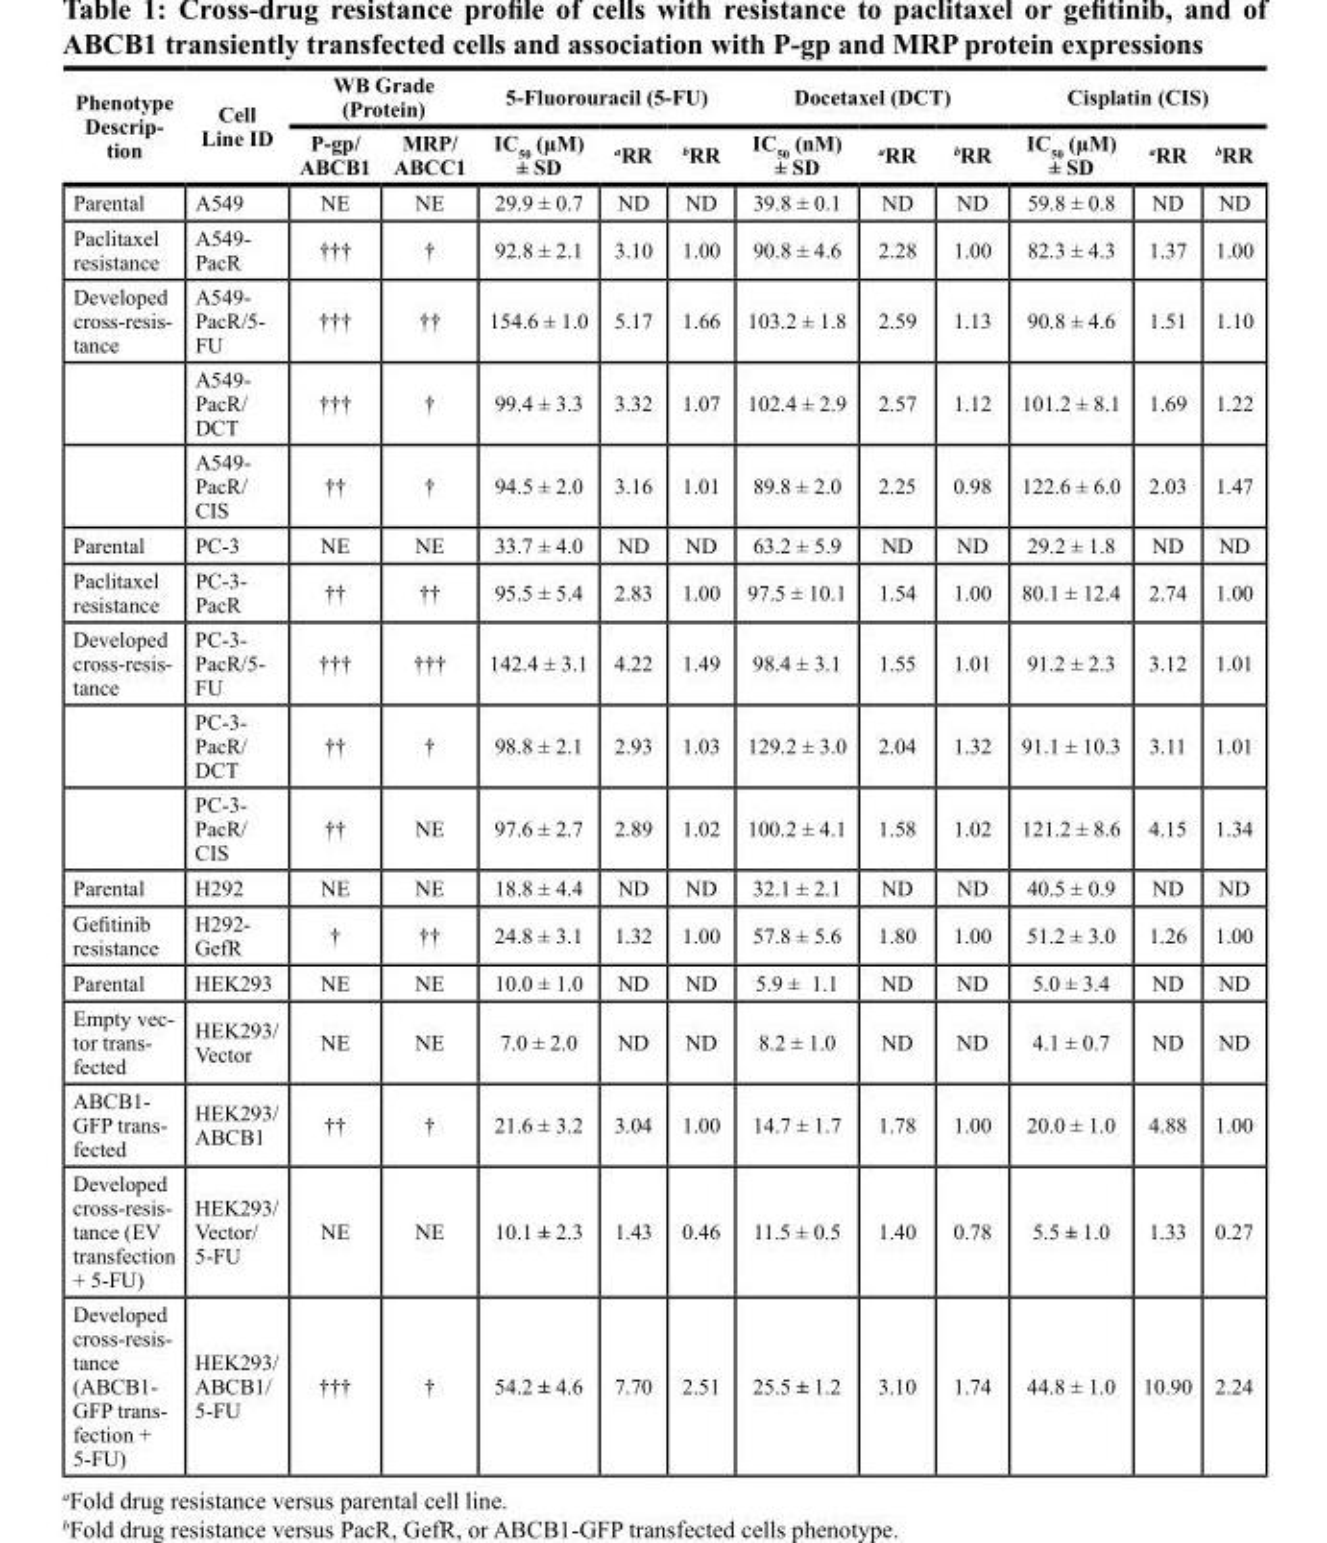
<table><thead><tr><td rowspan="2">Phenotype Descrip- tion</td><td rowspan="2">cell Line ID</td><td colspan="2">Wb Grade (Protein)</td><td colspan="3">5-Fluorouracil (5-FU)</td><td colspan="3">Docetaxel (Dct)</td><td colspan="3">cisplatin (cIs)</td></tr><tr><td>P-gp/ Abcb1</td><td>MRP/ Abcc1</td><td>Ic<sub>50</sub> (µM) ± sD</td><td><sup>a</sup>rr</td><td><sup>b</sup>rr</td><td>Ic<sub>50</sub> (nM) ± sD</td><td><sup>a</sup>rr</td><td><sup>b</sup>rr</td><td>Ic<sub>50</sub> (µM) ± sD</td><td><sup>a</sup>rr</td><td><sup>b</sup>rr</td></tr></thead><tbody><tr><td>Parental</td><td>A549</td><td>NE</td><td>NE</td><td>29.9 ± 0.7</td><td>ND</td><td>ND</td><td>39.8 ± 0.1</td><td>ND</td><td>ND</td><td>59.8 ± 0.8</td><td>ND</td><td>ND</td></tr><tr><td>Paclitaxel resistance</td><td>A549- PacR</td><td>†††</td><td>†</td><td>92.8 ± 2.1</td><td>3.10</td><td>1.00</td><td>90.8 ± 4.6</td><td>2.28</td><td>1.00</td><td>82.3 ± 4.3</td><td>1.37</td><td>1.00</td></tr><tr><td rowspan="3">Developed cross-resis- tance</td><td>A549- PacR/5- FU</td><td>†††</td><td>††</td><td>154.6 ± 1.0</td><td>5.17</td><td>1.66</td><td>103.2 ± 1.8</td><td>2.59</td><td>1.13</td><td>90.8 ± 4.6</td><td>1.51</td><td>1.10</td></tr><tr><td>A549- PacR/ DCT</td><td>†††</td><td>†</td><td>99.4 ± 3.3</td><td>3.32</td><td>1.07</td><td>102.4 ± 2.9</td><td>2.57</td><td>1.12</td><td>101.2 ± 8.1</td><td>1.69</td><td>1.22</td></tr><tr><td>A549- PacR/ CIS</td><td>††</td><td>†</td><td>94.5 ± 2.0</td><td>3.16</td><td>1.01</td><td>89.8 ± 2.0</td><td>2.25</td><td>0.98</td><td>122.6 ± 6.0</td><td>2.03</td><td>1.47</td></tr><tr><td>Parental</td><td>PC-3</td><td>NE</td><td>NE</td><td>33.7 ± 4.0</td><td>ND</td><td>ND</td><td>63.2 ± 5.9</td><td>ND</td><td>ND</td><td>29.2 ± 1.8</td><td>ND</td><td>ND</td></tr><tr><td>Paclitaxel resistance</td><td>PC-3- PacR</td><td>††</td><td>††</td><td>95.5 ± 5.4</td><td>2.83</td><td>1.00</td><td>97.5 ± 10.1</td><td>1.54</td><td>1.00</td><td>80.1 ± 12.4</td><td>2.74</td><td>1.00</td></tr><tr><td rowspan="3">Developed cross-resis- tance</td><td>PC-3- PacR/5- FU</td><td>†††</td><td>†††</td><td>142.4 ± 3.1</td><td>4.22</td><td>1.49</td><td>98.4 ± 3.1</td><td>1.55</td><td>1.01</td><td>91.2 ± 2.3</td><td>3.12</td><td>1.01</td></tr><tr><td>PC-3- PacR/ DCT</td><td>††</td><td>†</td><td>98.8 ± 2.1</td><td>2.93</td><td>1.03</td><td>129.2 ± 3.0</td><td>2.04</td><td>1.32</td><td>91.1 ± 10.3</td><td>3.11</td><td>1.01</td></tr><tr><td>PC-3- PacR/ CIS</td><td>††</td><td>NE</td><td>97.6 ± 2.7</td><td>2.89</td><td>1.02</td><td>100.2 ± 4.1</td><td>1.58</td><td>1.02</td><td>121.2 ± 8.6</td><td>4.15</td><td>1.34</td></tr><tr><td>Parental</td><td>H292</td><td>NE</td><td>NE</td><td>18.8 ± 4.4</td><td>ND</td><td>ND</td><td>32.1 ± 2.1</td><td>ND</td><td>ND</td><td>40.5 ± 0.9</td><td>ND</td><td>ND</td></tr><tr><td>Gefitinib resistance</td><td>H292- GefR</td><td>†</td><td>††</td><td>24.8 ± 3.1</td><td>1.32</td><td>1.00</td><td>57.8 ± 5.6</td><td>1.80</td><td>1.00</td><td>51.2 ± 3.0</td><td>1.26</td><td>1.00</td></tr><tr><td>Parental</td><td>HEK293</td><td>NE</td><td>NE</td><td>10.0 ± 1.0</td><td>ND</td><td>ND</td><td>5.9 ± 1.1</td><td>ND</td><td>ND</td><td>5.0 ± 3.4</td><td>ND</td><td>ND</td></tr><tr><td>Empty vec- tor trans- fected</td><td>HEK293/ Vector</td><td>NE</td><td>NE</td><td>7.0 ± 2.0</td><td>ND</td><td>ND</td><td>8.2 ± 1.0</td><td>ND</td><td>ND</td><td>4.1 ± 0.7</td><td>ND</td><td>ND</td></tr><tr><td>ABCB1- GFP trans- fected</td><td>HEK293/ ABCB1</td><td>††</td><td>†</td><td>21.6 ± 3.2</td><td>3.04</td><td>1.00</td><td>14.7 ± 1.7</td><td>1.78</td><td>1.00</td><td>20.0 ± 1.0</td><td>4.88</td><td>1.00</td></tr><tr><td>Developed cross-resis- tance (EV transfection + 5-FU)</td><td>HEK293/ Vector/ 5-FU</td><td>NE</td><td>NE</td><td>10.1 ± 2.3</td><td>1.43</td><td>0.46</td><td>11.5 ± 0.5</td><td>1.40</td><td>0.78</td><td>5.5 ± 1.0</td><td>1.33</td><td>0.27</td></tr><tr><td>Developed cross-resis- tance (ABCB1- GFP trans- fection + 5-FU)</td><td>HEK293/ ABCB1/ 5-FU</td><td>†††</td><td>†</td><td>54.2 ± 4.6</td><td>7.70</td><td>2.51</td><td>25.5 ± 1.2</td><td>3.10</td><td>1.74</td><td>44.8 ± 1.0</td><td>10.90</td><td>2.24</td></tr></tbody></table>